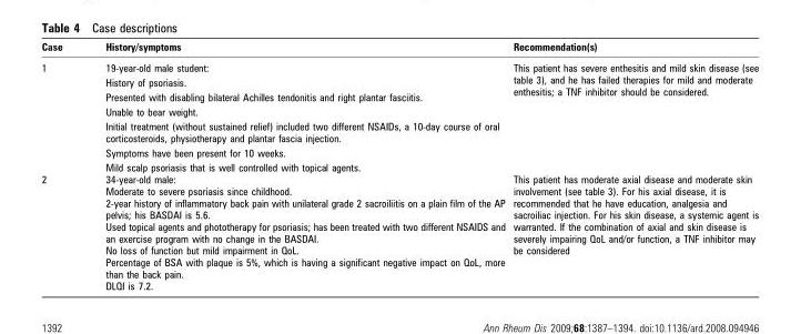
<table><thead><tr><td>Case</td><td>History/symptoms</td><td>Recommendation(s)</td></tr></thead><tbody><tr><td>1</td><td>19-year-old male student: History of psoriasis. Presented with disabling bilateral Achilles tendonitis and right plantar fasciitis. Unable to bear weight. Initial treatment (without sustained relief) included two different NSAIDs, a 10-day course of oral corticosteroids, physiotherapy and plantar fascia injection. Symptoms have been present for 10 weeks. Mild scalp psoriasis that is well controlled with topical agents.</td><td>This patient has severe enthesitis and mild skin disease (see table 3), and he has failed therapies for mild and moderate enthesitis; a TNF inhibitor should be considered.</td></tr><tr><td>2</td><td>34-year-old male: Moderate to severe psoriasis since childhood. 2-year history of inflammatory back pain with unilateral grade 2 sacroiliitis on a plain film of the AP pelvis; his BASDAI is 5.6. Used topical agents and phototherapy for psoriasis; has been treated with two different NSAIDS and an exercise program with no change in the BASDAI. No loss of function but mild impairment in QoL. Percentage of BSA with plaque is 5%, which is having a significant negative impact on QoL, more than the back pain. DLQI is 7.2.</td><td>This patient has moderate axial disease and moderate skin involvement (see table 3). For his axial disease, it is recommended that he have education, analgesia and sacroiliac injection. For his skin disease, a systemic agent is warranted. If the combination of axial and skin disease is severely impairing QoL and/or function, a TNF inhibitor may be considered</td></tr></tbody></table>